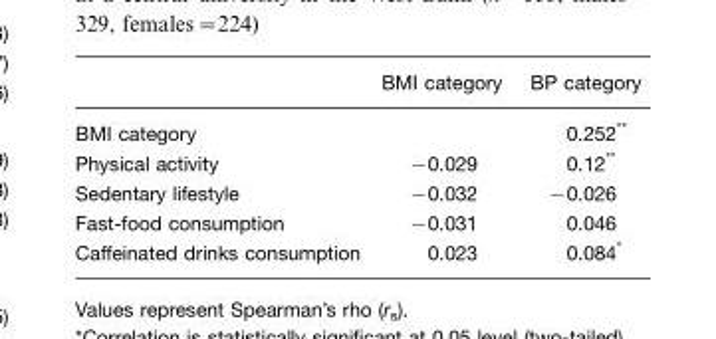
<table><thead><tr><td></td><td>BMI category</td><td>BP category</td></tr></thead><tbody><tr><td>BMI category</td><td></td><td>0.252**</td></tr><tr><td>Physical activity</td><td>−0.029</td><td>0.12**</td></tr><tr><td>Sedentary lifestyle</td><td>−0.032</td><td>−0.026</td></tr><tr><td>Fast-food consumption</td><td>−0.031</td><td>0.046</td></tr><tr><td>Caffeinated drinks consumption</td><td>0.023</td><td>0.084*</td></tr></tbody></table>